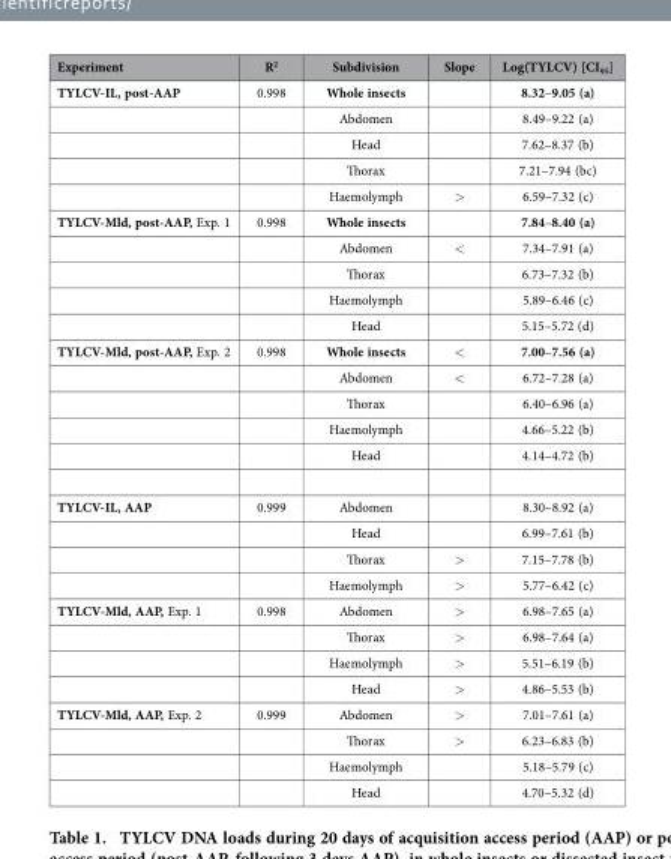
<table><thead><tr><td>Experiment</td><td>R<sup>2</sup></td><td>Subdivision</td><td>Slope</td><td>Log(TYLCV) [CI<sub>95</sub>]</td></tr></thead><tbody><tr><td rowspan="5">TYLCV-IL, post-AAP</td><td>0.998</td><td>Whole insects</td><td></td><td>8.32–9.05 (a)</td></tr><tr><td></td><td>Abdomen</td><td></td><td>8.49–9.22 (a)</td></tr><tr><td></td><td>Head</td><td></td><td>7.62–8.37 (b)</td></tr><tr><td></td><td>Thorax</td><td></td><td>7.21–7.94 (bc)</td></tr><tr><td></td><td>Haemolymph</td><td>&gt;</td><td>6.59–7.32 (c)</td></tr><tr><td rowspan="5">TYLCV-Mld, post-AAP, Exp. 1</td><td>0.998</td><td>Whole insects</td><td></td><td>7.84–8.40 (a)</td></tr><tr><td></td><td>Abdomen</td><td>&lt;</td><td>7.34–7.91 (a)</td></tr><tr><td></td><td>Thorax</td><td></td><td>6.73–7.32 (b)</td></tr><tr><td></td><td>Haemolymph</td><td></td><td>5.89–6.46 (c)</td></tr><tr><td></td><td>Head</td><td></td><td>5.15–5.72 (d)</td></tr><tr><td rowspan="5">TYLCV-Mld, post-AAP, Exp. 2</td><td>0.998</td><td>Whole insects</td><td>&lt;</td><td>7.00–7.56 (a)</td></tr><tr><td></td><td>Abdomen</td><td>&lt;</td><td>6.72–7.28 (a)</td></tr><tr><td></td><td>Thorax</td><td></td><td>6.40–6.96 (a)</td></tr><tr><td></td><td>Haemolymph</td><td></td><td>4.66–5.22 (b)</td></tr><tr><td></td><td>Head</td><td></td><td>4.14–4.72 (b)</td></tr><tr><td rowspan="4">TYLCV-IL, AAP</td><td>0.999</td><td>Abdomen</td><td></td><td>8.30–8.92 (a)</td></tr><tr><td></td><td>Head</td><td></td><td>6.99–7.61 (b)</td></tr><tr><td></td><td>Thorax</td><td>&gt;</td><td>7.15–7.78 (b)</td></tr><tr><td></td><td>Haemolymph</td><td>&gt;</td><td>5.77–6.42 (c)</td></tr><tr><td rowspan="4">TYLCV-Mld, AAP, Exp. 1</td><td>0.998</td><td>Abdomen</td><td>&gt;</td><td>6.98–7.65 (a)</td></tr><tr><td></td><td>Thorax</td><td>&gt;</td><td>6.98–7.64 (a)</td></tr><tr><td></td><td>Haemolymph</td><td>&gt;</td><td>5.51–6.19 (b)</td></tr><tr><td></td><td>Head</td><td>&gt;</td><td>4.86–5.53 (b)</td></tr><tr><td rowspan="4">TYLCV-Mld, AAP, Exp. 2</td><td>0.999</td><td>Abdomen</td><td>&gt;</td><td>7.01–7.61 (a)</td></tr><tr><td></td><td>Thorax</td><td>&gt;</td><td>6.23–6.83 (b)</td></tr><tr><td></td><td>Haemolymph</td><td></td><td>5.18–5.79 (c)</td></tr><tr><td></td><td>Head</td><td></td><td>4.70–5.32 (d)</td></tr></tbody></table>